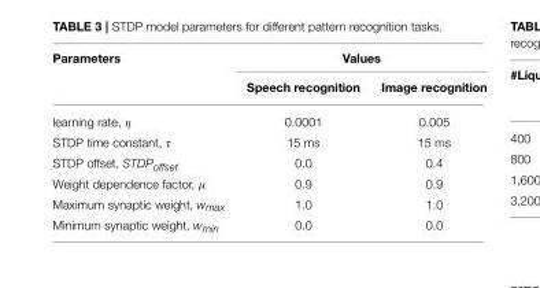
<table><thead><tr><td rowspan="2">Parameters</td><td colspan="2">Values</td></tr><tr><td>Speech recognition</td><td>Image recognition</td></tr></thead><tbody><tr><td>learning rate, η</td><td>0.0001</td><td>0.005</td></tr><tr><td>STDP time constant, τ</td><td>15 ms</td><td>15 ms</td></tr><tr><td>STDP offset, STDP<sub>offset</sub></td><td>0.0</td><td>0.4</td></tr><tr><td>Weight dependence factor, µ</td><td>0.9</td><td>0.9</td></tr><tr><td>Maximum synaptic weight, w<sub>max</sub></td><td>1.0</td><td>1.0</td></tr><tr><td>Minimum synaptic weight, w<sub>min</sub></td><td>0.0</td><td>0.0</td></tr></tbody></table>